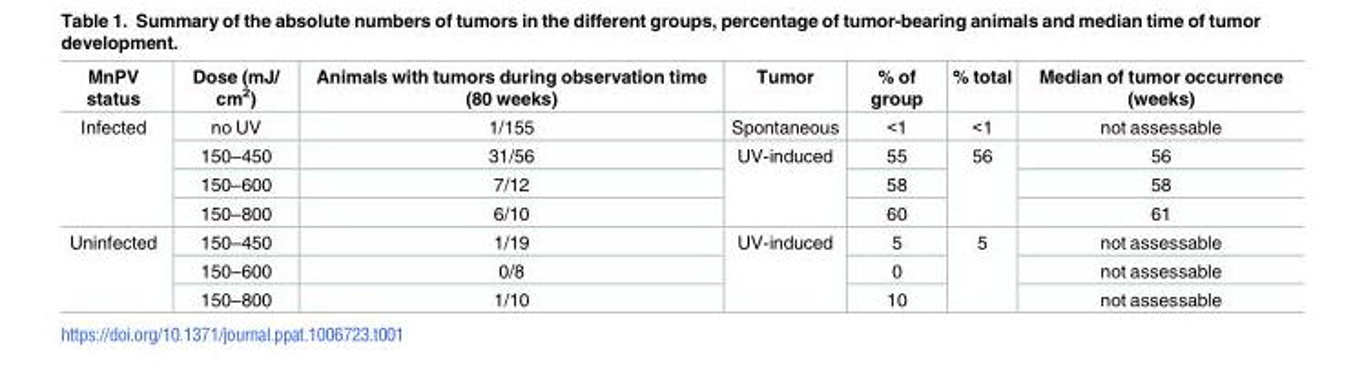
<table><thead><tr><td>MnPV status</td><td>Dose (mJ/ cm<sup>2</sup>)</td><td>Animals with tumors during observation time (80 weeks)</td><td>Tumor</td><td>% of group</td><td>% total</td><td>Median of tumor occurrence (weeks)</td></tr></thead><tbody><tr><td rowspan="4">Infected</td><td>no UV</td><td>1/155</td><td>Spontaneous</td><td>&lt;1</td><td>&lt;1</td><td>not assessable</td></tr><tr><td>150–450</td><td>31/56</td><td rowspan="3">UV-induced</td><td>55</td><td rowspan="3">56</td><td>56</td></tr><tr><td>150–600</td><td>7/12</td><td>58</td><td>58</td></tr><tr><td>150–800</td><td>6/10</td><td>60</td><td>61</td></tr><tr><td rowspan="3">Uninfected</td><td>150–450</td><td>1/19</td><td rowspan="3">UV-induced</td><td>5</td><td rowspan="3">5</td><td>not assessable</td></tr><tr><td>150–600</td><td>0/8</td><td>0</td><td>not assessable</td></tr><tr><td>150–800</td><td>1/10</td><td>10</td><td>not assessable</td></tr></tbody></table>